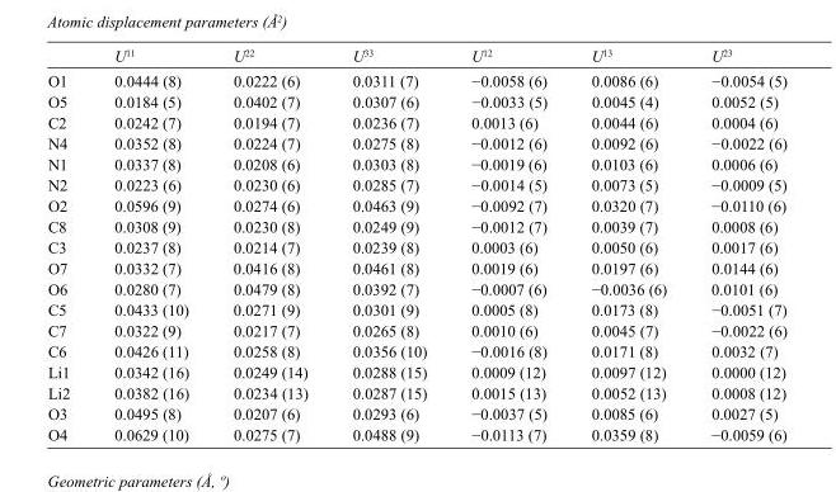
<table><thead><tr><td></td><td>U<sup>11</sup></td><td>U<sup>22</sup></td><td>U<sup>33</sup></td><td>U<sup>12</sup></td><td>U<sup>13</sup></td><td>U<sup>23</sup></td></tr></thead><tbody><tr><td>O1</td><td>0.0444 (8)</td><td>0.0222 (6)</td><td>0.0311 (7)</td><td>−0.0058 (6)</td><td>0.0086 (6)</td><td>−0.0054 (5)</td></tr><tr><td>O5</td><td>0.0184 (5)</td><td>0.0402 (7)</td><td>0.0307 (6)</td><td>−0.0033 (5)</td><td>0.0045 (4)</td><td>0.0052 (5)</td></tr><tr><td>C2</td><td>0.0242 (7)</td><td>0.0194 (7)</td><td>0.0236 (7)</td><td>0.0013 (6)</td><td>0.0044 (6)</td><td>0.0004 (6)</td></tr><tr><td>N4</td><td>0.0352 (8)</td><td>0.0224 (7)</td><td>0.0275 (8)</td><td>−0.0012 (6)</td><td>0.0092 (6)</td><td>−0.0022 (6)</td></tr><tr><td>N1</td><td>0.0337 (8)</td><td>0.0208 (6)</td><td>0.0303 (8)</td><td>−0.0019 (6)</td><td>0.0103 (6)</td><td>0.0006 (6)</td></tr><tr><td>N2</td><td>0.0223 (6)</td><td>0.0230 (6)</td><td>0.0285 (7)</td><td>−0.0014 (5)</td><td>0.0073 (5)</td><td>−0.0009 (5)</td></tr><tr><td>O2</td><td>0.0596 (9)</td><td>0.0274 (6)</td><td>0.0463 (9)</td><td>−0.0092 (7)</td><td>0.0320 (7)</td><td>−0.0110 (6)</td></tr><tr><td>C8</td><td>0.0308 (9)</td><td>0.0230 (8)</td><td>0.0249 (9)</td><td>−0.0012 (7)</td><td>0.0039 (7)</td><td>0.0008 (6)</td></tr><tr><td>C3</td><td>0.0237 (8)</td><td>0.0214 (7)</td><td>0.0239 (8)</td><td>0.0003 (6)</td><td>0.0050 (6)</td><td>0.0017 (6)</td></tr><tr><td>O7</td><td>0.0332 (7)</td><td>0.0416 (8)</td><td>0.0461 (8)</td><td>0.0019 (6)</td><td>0.0197 (6)</td><td>0.0144 (6)</td></tr><tr><td>O6</td><td>0.0280 (7)</td><td>0.0479 (8)</td><td>0.0392 (7)</td><td>−0.0007 (6)</td><td>−0.0036 (6)</td><td>0.0101 (6)</td></tr><tr><td>C5</td><td>0.0433 (10)</td><td>0.0271 (9)</td><td>0.0301 (9)</td><td>0.0005 (8)</td><td>0.0173 (8)</td><td>−0.0051 (7)</td></tr><tr><td>C7</td><td>0.0322 (9)</td><td>0.0217 (7)</td><td>0.0265 (8)</td><td>0.0010 (6)</td><td>0.0045 (7)</td><td>−0.0022 (6)</td></tr><tr><td>C6</td><td>0.0426 (11)</td><td>0.0258 (8)</td><td>0.0356 (10)</td><td>−0.0016 (8)</td><td>0.0171 (8)</td><td>0.0032 (7)</td></tr><tr><td>Li1</td><td>0.0342 (16)</td><td>0.0249 (14)</td><td>0.0288 (15)</td><td>0.0009 (12)</td><td>0.0097 (12)</td><td>0.0000 (12)</td></tr><tr><td>Li2</td><td>0.0382 (16)</td><td>0.0234 (13)</td><td>0.0287 (15)</td><td>0.0015 (13)</td><td>0.0052 (13)</td><td>0.0008 (12)</td></tr><tr><td>O3</td><td>0.0495 (8)</td><td>0.0207 (6)</td><td>0.0293 (6)</td><td>−0.0037 (5)</td><td>0.0085 (6)</td><td>0.0027 (5)</td></tr><tr><td>O4</td><td>0.0629 (10)</td><td>0.0275 (7)</td><td>0.0488 (9)</td><td>−0.0113 (7)</td><td>0.0359 (8)</td><td>−0.0059 (6)</td></tr></tbody></table>